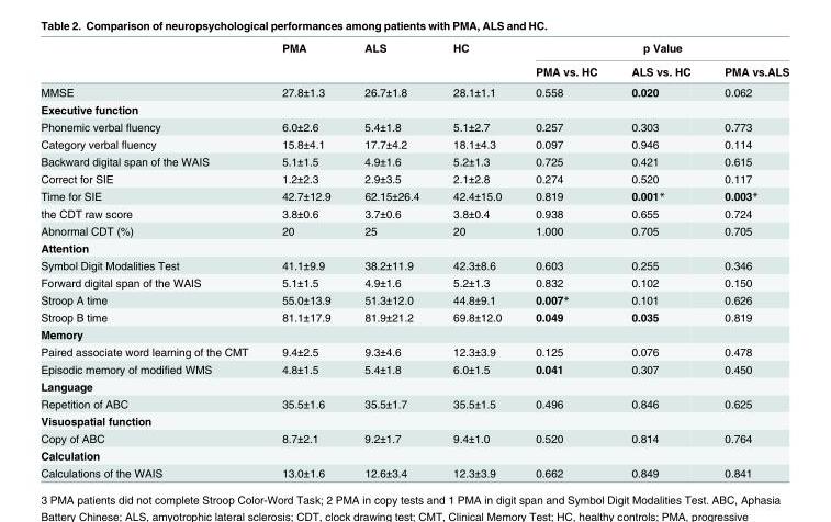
<table><thead><tr><td rowspan="2"></td><td rowspan="2">PMA</td><td rowspan="2">ALS</td><td rowspan="2">HC</td><td colspan="3">p Value</td></tr><tr><td>PMA vs. HC</td><td>ALS vs. HC</td><td>PMA vs.ALS</td></tr></thead><tbody><tr><td>MMSE</td><td>27.8±1.3</td><td>26.7±1.8</td><td>28.1±1.1</td><td>0.558</td><td>0.020</td><td>0.062</td></tr><tr><td colspan="7">Executive function</td></tr><tr><td>Phonemic verbal fluency</td><td>6.0±2.6</td><td>5.4±1.8</td><td>5.1±2.7</td><td>0.257</td><td>0.303</td><td>0.773</td></tr><tr><td>Category verbal fluency</td><td>15.8±4.1</td><td>17.7±4.2</td><td>18.1±4.3</td><td>0.097</td><td>0.946</td><td>0.114</td></tr><tr><td>Backward digital span of the WAIS</td><td>5.1±1.5</td><td>4.9±1.6</td><td>5.2±1.3</td><td>0.725</td><td>0.421</td><td>0.615</td></tr><tr><td>Correct for SIE</td><td>1.2±2.3</td><td>2.9±3.5</td><td>2.1±2.8</td><td>0.274</td><td>0.520</td><td>0.117</td></tr><tr><td>Time for SIE</td><td>42.7±12.9</td><td>62.15±26.4</td><td>42.4±15.0</td><td>0.819</td><td>0.001*</td><td>0.003*</td></tr><tr><td>the CDT raw score</td><td>3.8±0.6</td><td>3.7±0.6</td><td>3.8±0.4</td><td>0.938</td><td>0.655</td><td>0.724</td></tr><tr><td>Abnormal CDT (%)</td><td>20</td><td>25</td><td>20</td><td>1.000</td><td>0.705</td><td>0.705</td></tr><tr><td colspan="7">Attention</td></tr><tr><td>Symbol Digit Modalities Test</td><td>41.1±9.9</td><td>38.2±11.9</td><td>42.3±8.6</td><td>0.603</td><td>0.255</td><td>0.346</td></tr><tr><td>Forward digital span of the WAIS</td><td>5.1±1.5</td><td>4.9±1.6</td><td>5.2±1.3</td><td>0.832</td><td>0.102</td><td>0.150</td></tr><tr><td>Stroop A time</td><td>55.0±13.9</td><td>51.3±12.0</td><td>44.8±9.1</td><td>0.007*</td><td>0.101</td><td>0.626</td></tr><tr><td>Stroop B time</td><td>81.1±17.9</td><td>81.9±21.2</td><td>69.8±12.0</td><td>0.049</td><td>0.035</td><td>0.819</td></tr><tr><td colspan="7">Memory</td></tr><tr><td>Paired associate word learning of the CMT</td><td>9.4±2.5</td><td>9.3±4.6</td><td>12.3±3.9</td><td>0.125</td><td>0.076</td><td>0.478</td></tr><tr><td>Episodic memory of modified WMS</td><td>4.8±1.5</td><td>5.4±1.8</td><td>6.0±1.5</td><td>0.041</td><td>0.307</td><td>0.450</td></tr><tr><td colspan="7">Language</td></tr><tr><td>Repetition of ABC</td><td>35.5±1.6</td><td>35.5±1.7</td><td>35.5±1.5</td><td>0.496</td><td>0.846</td><td>0.625</td></tr><tr><td colspan="7">Visuospatial function</td></tr><tr><td>Copy of ABC</td><td>8.7±2.1</td><td>9.2±1.7</td><td>9.4±1.0</td><td>0.520</td><td>0.814</td><td>0.764</td></tr><tr><td colspan="7">Calculation</td></tr><tr><td>Calculations of the WAIS</td><td>13.0±1.6</td><td>12.6±3.4</td><td>12.3±3.9</td><td>0.662</td><td>0.849</td><td>0.841</td></tr></tbody></table>